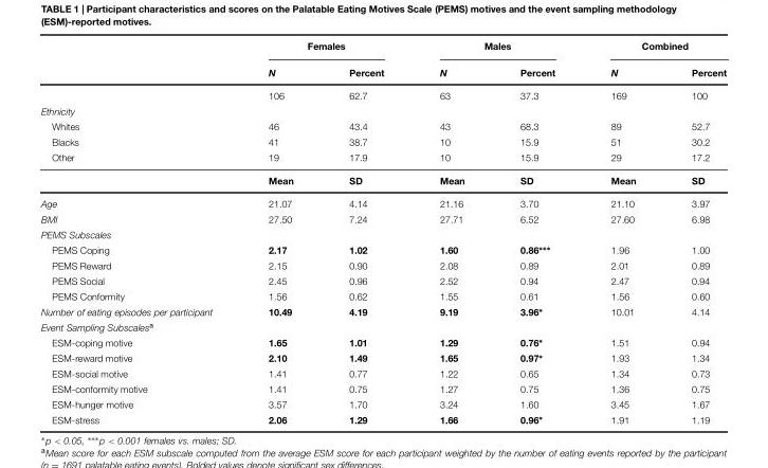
<table><thead><tr><td rowspan="2"></td><td colspan="2">Females</td><td colspan="2">Males</td><td colspan="2">Combined</td></tr><tr><td>N</td><td>Percent</td><td>N</td><td>Percent</td><td>N</td><td>Percent</td></tr></thead><tbody><tr><td></td><td>106</td><td>62.7</td><td>63</td><td>37.3</td><td>169</td><td>100</td></tr><tr><td colspan="7">Ethnicity</td></tr><tr><td>Whites</td><td>46</td><td>43.4</td><td>43</td><td>68.3</td><td>89</td><td>52.7</td></tr><tr><td>Blacks</td><td>41</td><td>38.7</td><td>10</td><td>15.9</td><td>51</td><td>30.2</td></tr><tr><td rowspan="2">Other</td><td>19</td><td>17.9</td><td>10</td><td>15.9</td><td>29</td><td>17.2</td></tr><tr><td>Mean</td><td>SD</td><td>Mean</td><td>SD</td><td>Mean</td><td>SD</td></tr><tr><td>Age</td><td>21.07</td><td>4.14</td><td>21.16</td><td>3.70</td><td>21.10</td><td>3.97</td></tr><tr><td>BMI</td><td>27.50</td><td>7.24</td><td>27.71</td><td>6.52</td><td>27.60</td><td>6.98</td></tr><tr><td colspan="7">PEMS Subscales</td></tr><tr><td>PEMS Coping</td><td>2.17</td><td>1.02</td><td>1.60</td><td>0.86∗∗∗</td><td>1.96</td><td>1.00</td></tr><tr><td>PEMS Reward</td><td>2.15</td><td>0.90</td><td>2.08</td><td>0.89</td><td>2.01</td><td>0.89</td></tr><tr><td>PEMS Social</td><td>2.45</td><td>0.96</td><td>2.52</td><td>0.94</td><td>2.47</td><td>0.94</td></tr><tr><td>PEMS Conformity</td><td>1.56</td><td>0.62</td><td>1.55</td><td>0.61</td><td>1.56</td><td>0.60</td></tr><tr><td>Number of eating episodes per participant</td><td>10.49</td><td>4.19</td><td>9.19</td><td>3.96∗</td><td>10.01</td><td>4.14</td></tr><tr><td colspan="7">Event Sampling Subscales<sup>a</sup></td></tr><tr><td>ESM-coping motive</td><td>1.65</td><td>1.01</td><td>1.29</td><td>0.76∗</td><td>1.51</td><td>0.94</td></tr><tr><td>ESM-reward motive</td><td>2.10</td><td>1.49</td><td>1.65</td><td>0.97∗</td><td>1.93</td><td>1.34</td></tr><tr><td>ESM-social motive</td><td>1.41</td><td>0.77</td><td>1.22</td><td>0.65</td><td>1.34</td><td>0.73</td></tr><tr><td>ESM-conformity motive</td><td>1.41</td><td>0.75</td><td>1.27</td><td>0.75</td><td>1.36</td><td>0.75</td></tr><tr><td>ESM-hunger motive</td><td>3.57</td><td>1.70</td><td>3.24</td><td>1.60</td><td>3.45</td><td>1.67</td></tr><tr><td>ESM-stress</td><td>2.06</td><td>1.29</td><td>1.66</td><td>0.96∗</td><td>1.91</td><td>1.19</td></tr></tbody></table>